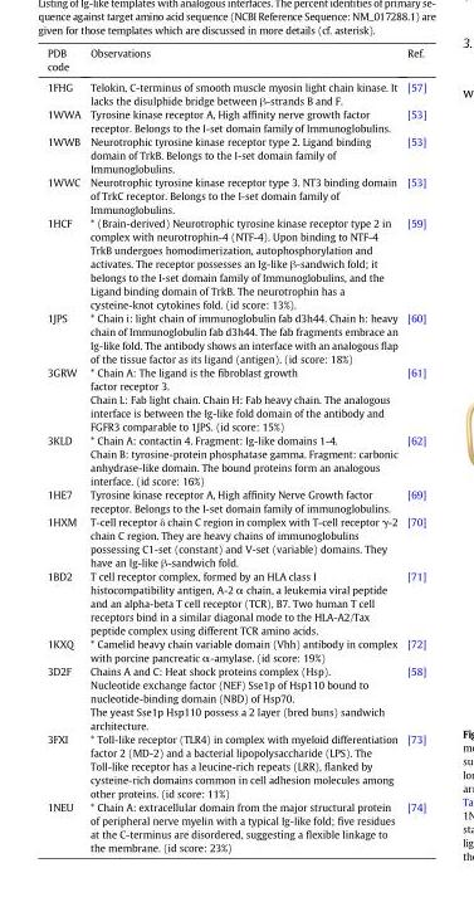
<table><thead><tr><td>PDB code</td><td>Observations</td><td>Ref.</td></tr></thead><tbody><tr><td>1FHG</td><td>Telokin, C-terminus of smooth muscle myosin light chain kinase. It lacks the disulphide bridge between β-strands B and F.</td><td>[57]</td></tr><tr><td>1WWA</td><td>Tyrosine kinase receptor A, High affinity nerve growth factor receptor. Belongs to the I-set domain family of Immunoglobulins.</td><td>[53]</td></tr><tr><td>1WWB</td><td>Neurotrophic tyrosine kinase receptor type 2. Ligand binding domain of TrkB. Belongs to the I-set domain family of Immunoglobulins.</td><td>[53]</td></tr><tr><td>1WWC</td><td>Neurotrophic tyrosine kinase receptor type 3. NT3 binding domain of TrkC receptor. Belongs to the I-set domain family of Immunoglobulins.</td><td>[53]</td></tr><tr><td>1HCF</td><td>* (Brain-derived) Neurotrophic tyrosine kinase receptor type 2 in complex with neurotrophin-4 (NTF-4). Upon binding to NTF-4 TrkB undergoes homodimerization, autophosphorylation and activates. The receptor possesses an Ig-like β-sandwich fold; it belongs to the I-set domain family of Immunoglobulins, and the Ligand binding domain of TrkB. The neurotrophin has a cysteine-knot cytokines fold. (id score: 13%).</td><td>[59]</td></tr><tr><td>1JPS</td><td>* Chain i: light chain of immunoglobulin fab d3h44. Chain h: heavy chain of Immunoglobulin fab d3h44. The fab fragments embrace an Ig-like fold. The antibody shows an interface with an analogous flap of the tissue factor as its ligand (antigen). (id score: 18%)</td><td>[60]</td></tr><tr><td>3GRW</td><td>* Chain A: The ligand is the fibroblast growth factor receptor 3. Chain L: Fab light chain. Chain H: Fab heavy chain. The analogous interface is between the Ig-like fold domain of the antibody and FGFR3 comparable to 1JPS. (id score: 15%)</td><td>[61]</td></tr><tr><td>3KLD</td><td>* Chain A: contactin 4. Fragment: Ig-like domains 1-4. Chain B: tyrosine-protein phosphatase gamma. Fragment: carbonic anhydrase-like domain. The bound proteins form an analogous interface. (id score: 16%)</td><td>[62]</td></tr><tr><td>1HE7</td><td>Tyrosine kinase receptor A, High affinity Nerve Growth factor receptor. Belongs to the I-set domain family of immunoglobulins.</td><td>[69]</td></tr><tr><td>1HXM</td><td>T-cell receptor δ chain C region in complex with T-cell receptor γ-2 chain C region. They are heavy chains of immunoglobulins possessing C1-set (constant) and V-set (variable) domains. They have an Ig-like β-sandwich fold.</td><td>[70]</td></tr><tr><td>1BD2</td><td>T cell receptor complex, formed by an HLA class I histocompatibility antigen, A-2 α chain, a leukemia viral peptide and an alpha-beta T cell receptor (TCR), B7. Two human T cell receptors bind in a similar diagonal mode to the HLA-A2/Tax peptide complex using different TCR amino acids.</td><td>[71]</td></tr><tr><td>1KXQ</td><td>* Camelid heavy chain variable domain (Vhh) antibody in complex with porcine pancreatic α-amylase. (id score: 19%)</td><td>[72]</td></tr><tr><td>3D2F</td><td>Chains A and C: Heat shock proteins complex (Hsp). Nucleotide exchange factor (NEF) Sse1p of Hsp110 bound to nucleotide-binding domain (NBD) of Hsp70. The yeast Sse1p Hsp110 possess a 2 layer (bred buns) sandwich architecture.</td><td>[58]</td></tr><tr><td>3FXI</td><td>* Toll-like receptor (TLR4) in complex with myeloid differentiation factor 2 (MD-2) and a bacterial lipopolysaccharide (LPS). The Toll-like receptor has a leucine-rich repeats (LRR), flanked by cysteine-rich domains common in cell adhesion molecules among other proteins. (id score: 11%)</td><td>[73]</td></tr><tr><td>1NEU</td><td>* Chain A: extracellular domain from the major structural protein of peripheral nerve myelin with a typical Ig-like fold; five residues at the C-terminus are disordered, suggesting a flexible linkage to the membrane. (id score: 23%)</td><td>[74]</td></tr></tbody></table>